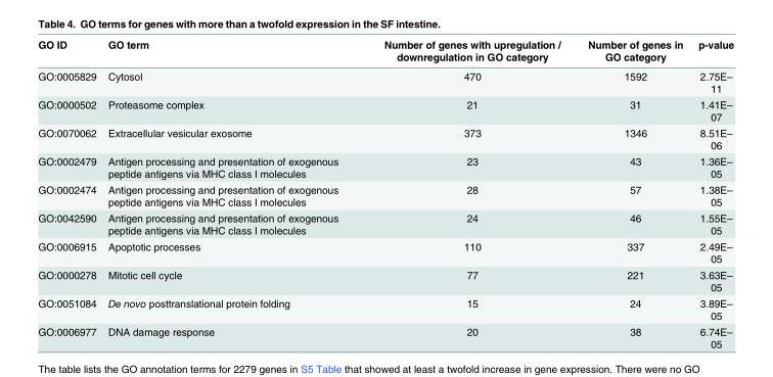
<table><thead><tr><td>GO ID</td><td>GO term</td><td>Number of genes with upregulation / downregulation in GO category</td><td>Number of genes in GO category</td><td>p-value</td></tr></thead><tbody><tr><td>GO:0005829</td><td>Cytosol</td><td>470</td><td>1592</td><td>2.75E– 11</td></tr><tr><td>GO:0000502</td><td>Proteasome complex</td><td>21</td><td>31</td><td>1.41E– 07</td></tr><tr><td>GO:0070062</td><td>Extracellular vesicular exosome</td><td>373</td><td>1346</td><td>8.51E– 06</td></tr><tr><td>GO:0002479</td><td>Antigen processing and presentation of exogenous peptide antigens via MHC class I molecules</td><td>23</td><td>43</td><td>1.36E– 05</td></tr><tr><td>GO:0002474</td><td>Antigen processing and presentation of exogenous peptide antigens via MHC class I molecules</td><td>28</td><td>57</td><td>1.38E– 05</td></tr><tr><td>GO:0042590</td><td>Antigen processing and presentation of exogenous peptide antigens via MHC class I molecules</td><td>24</td><td>46</td><td>1.55E– 05</td></tr><tr><td>GO:0006915</td><td>Apoptotic processes</td><td>110</td><td>337</td><td>2.49E– 05</td></tr><tr><td>GO:0000278</td><td>Mitotic cell cycle</td><td>77</td><td>221</td><td>3.63E– 05</td></tr><tr><td>GO:0051084</td><td>De novo posttranslational protein folding</td><td>15</td><td>24</td><td>3.89E– 05</td></tr><tr><td>GO:0006977</td><td>DNA damage response</td><td>20</td><td>38</td><td>6.74E–</td></tr></tbody></table>